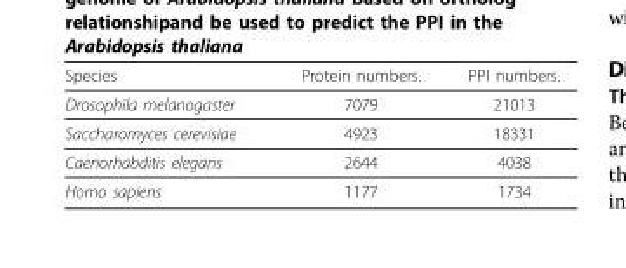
<table><thead><tr><td>Species</td><td>Protein numbers.</td><td>PPI numbers.</td></tr></thead><tbody><tr><td>Drosophila melanogaster</td><td>7079</td><td>21013</td></tr><tr><td>Saccharomyces cerevisiae</td><td>4923</td><td>18331</td></tr><tr><td>Caenorhabditis elegans</td><td>2644</td><td>4038</td></tr><tr><td>Homo sapiens</td><td>1177</td><td>1734</td></tr></tbody></table>